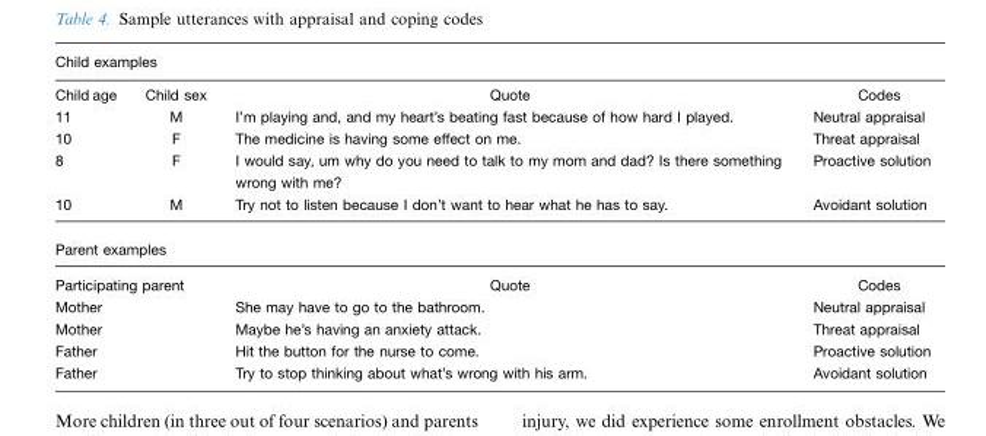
<table><thead><tr><td colspan="4">Child examples</td></tr><tr><td>Child age</td><td>Child sex</td><td>Quote</td><td>Codes</td></tr></thead><tbody><tr><td>11</td><td>M</td><td>I’m playing and, and my heart’s beating fast because of how hard I played.</td><td>Neutral appraisal</td></tr><tr><td>10</td><td>F</td><td>The medicine is having some effect on me.</td><td>Threat appraisal</td></tr><tr><td>8</td><td>F</td><td>I would say, um why do you need to talk to my mom and dad? Is there something wrong with me?</td><td>Proactive solution</td></tr><tr><td>10</td><td>M</td><td>Try not to listen because I don’t want to hear what he has to say.</td><td>Avoidant solution</td></tr><tr><td colspan="4">Parent examples</td></tr><tr><td colspan="2">Participating parent</td><td>Quote</td><td>Codes</td></tr><tr><td colspan="2">Mother</td><td>She may have to go to the bathroom.</td><td>Neutral appraisal</td></tr><tr><td colspan="2">Mother</td><td>Maybe he’s having an anxiety attack.</td><td>Threat appraisal</td></tr><tr><td colspan="2">Father</td><td>Hit the button for the nurse to come.</td><td>Proactive solution</td></tr><tr><td colspan="2">Father</td><td>Try to stop thinking about what’s wrong with his arm.</td><td>Avoidant solution</td></tr></tbody></table>